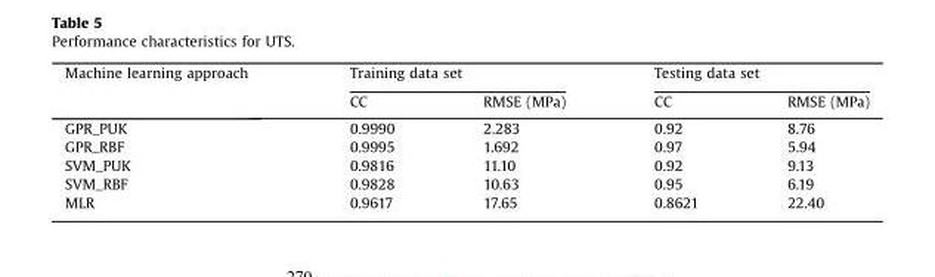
<table><thead><tr><td rowspan="2">Machine learning approach</td><td colspan="2">Training data set</td><td colspan="2">Testing data set</td></tr><tr><td>CC</td><td>RMSE (MPa)</td><td>CC</td><td>RMSE (MPa)</td></tr></thead><tbody><tr><td>GPR_PUK</td><td>0.9990</td><td>2.283</td><td>0.92</td><td>8.76</td></tr><tr><td>GPR_RBF</td><td>0.9995</td><td>1.692</td><td>0.97</td><td>5.94</td></tr><tr><td>SVM_PUK</td><td>0.9816</td><td>11.10</td><td>0.92</td><td>9.13</td></tr><tr><td>SVM_RBF</td><td>0.9828</td><td>10.63</td><td>0.95</td><td>6.19</td></tr><tr><td>MLR</td><td>0.9617</td><td>17.65</td><td>0.8621</td><td>22.40</td></tr></tbody></table>